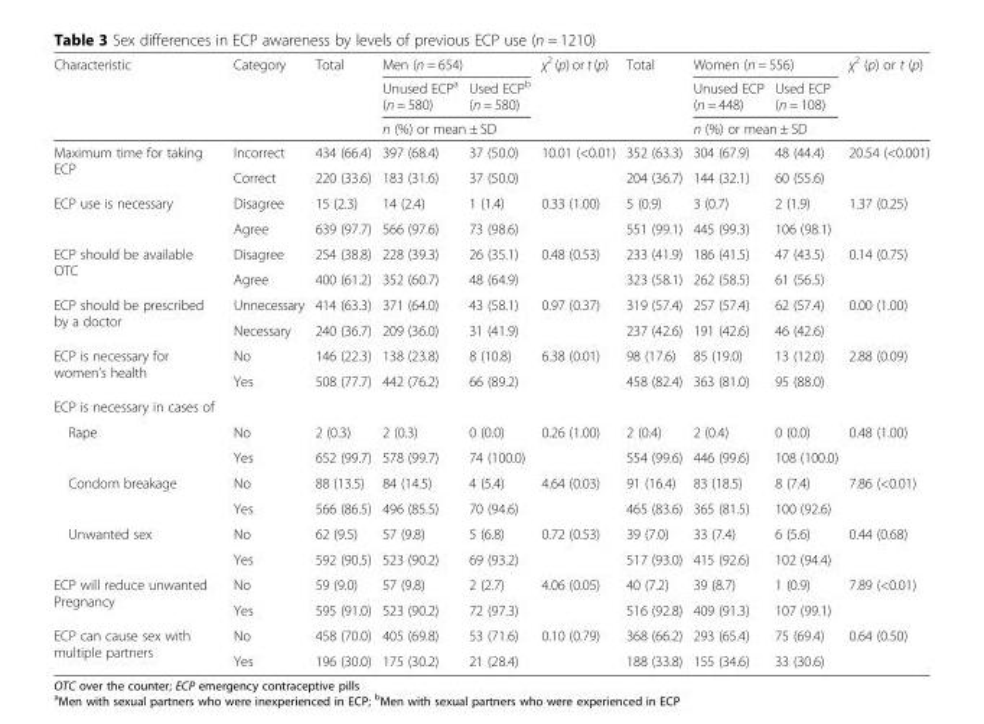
<table><thead><tr><td rowspan="3">Characteristic</td><td rowspan="3">Category</td><td rowspan="3">Total</td><td colspan="2">Men (n = 654)</td><td rowspan="3">χ<sup>2</sup> (p) or t (p)</td><td rowspan="3">Total</td><td colspan="2">Women (n = 556)</td><td rowspan="3">χ<sup>2</sup> (p) or t (p)</td></tr><tr><td>Unused ECP<sup>a</sup> (n = 580)</td><td>Used ECP<sup>b</sup> (n = 580)</td><td>Unused ECP (n = 448)</td><td>Used ECP (n = 108)</td></tr><tr><td colspan="2">n (%) or mean ± SD</td><td colspan="2">n (%) or mean ± SD</td></tr></thead><tbody><tr><td rowspan="2">Maximum time for taking ECP</td><td>Incorrect</td><td>434 (66.4)</td><td>397 (68.4)</td><td>37 (50.0)</td><td>10.01 (&lt;0.01)</td><td>352 (63.3)</td><td>304 (67.9)</td><td>48 (44.4)</td><td>20.54 (&lt;0.001)</td></tr><tr><td>Correct</td><td>220 (33.6)</td><td>183 (31.6)</td><td>37 (50.0)</td><td></td><td>204 (36.7)</td><td>144 (32.1)</td><td>60 (55.6)</td><td></td></tr><tr><td rowspan="2">ECP use is necessary</td><td>Disagree</td><td>15 (2.3)</td><td>14 (2.4)</td><td>1 (1.4)</td><td>0.33 (1.00)</td><td>5 (0.9)</td><td>3 (0.7)</td><td>2 (1.9)</td><td>1.37 (0.25)</td></tr><tr><td>Agree</td><td>639 (97.7)</td><td>566 (97.6)</td><td>73 (98.6)</td><td></td><td>551 (99.1)</td><td>445 (99.3)</td><td>106 (98.1)</td><td></td></tr><tr><td rowspan="2">ECP should be available OTC</td><td>Disagree</td><td>254 (38.8)</td><td>228 (39.3)</td><td>26 (35.1)</td><td>0.48 (0.53)</td><td>233 (41.9)</td><td>186 (41.5)</td><td>47 (43.5)</td><td>0.14 (0.75)</td></tr><tr><td>Agree</td><td>400 (61.2)</td><td>352 (60.7)</td><td>48 (64.9)</td><td></td><td>323 (58.1)</td><td>262 (58.5)</td><td>61 (56.5)</td><td></td></tr><tr><td rowspan="2">ECP should be prescribed by a doctor</td><td>Unnecessary</td><td>414 (63.3)</td><td>371 (64.0)</td><td>43 (58.1)</td><td>0.97 (0.37)</td><td>319 (57.4)</td><td>257 (57.4)</td><td>62 (57.4)</td><td>0.00 (1.00)</td></tr><tr><td>Necessary</td><td>240 (36.7)</td><td>209 (36.0)</td><td>31 (41.9)</td><td></td><td>237 (42.6)</td><td>191 (42.6)</td><td>46 (42.6)</td><td></td></tr><tr><td rowspan="2">ECP is necessary for women’s health</td><td>No</td><td>146 (22.3)</td><td>138 (23.8)</td><td>8 (10.8)</td><td>6.38 (0.01)</td><td>98 (17.6)</td><td>85 (19.0)</td><td>13 (12.0)</td><td>2.88 (0.09)</td></tr><tr><td>Yes</td><td>508 (77.7)</td><td>442 (76.2)</td><td>66 (89.2)</td><td></td><td>458 (82.4)</td><td>363 (81.0)</td><td>95 (88.0)</td><td></td></tr><tr><td colspan="10">ECP is necessary in cases of</td></tr><tr><td rowspan="2">Rape</td><td>No</td><td>2 (0.3)</td><td>2 (0.3)</td><td>0 (0.0)</td><td>0.26 (1.00)</td><td>2 (0.4)</td><td>2 (0.4)</td><td>0 (0.0)</td><td>0.48 (1.00)</td></tr><tr><td>Yes</td><td>652 (99.7)</td><td>578 (99.7)</td><td>74 (100.0)</td><td></td><td>554 (99.6)</td><td>446 (99.6)</td><td>108 (100.0)</td><td></td></tr><tr><td rowspan="2">Condom breakage</td><td>No</td><td>88 (13.5)</td><td>84 (14.5)</td><td>4 (5.4)</td><td>4.64 (0.03)</td><td>91 (16.4)</td><td>83 (18.5)</td><td>8 (7.4)</td><td>7.86 (&lt;0.01)</td></tr><tr><td>Yes</td><td>566 (86.5)</td><td>496 (85.5)</td><td>70 (94.6)</td><td></td><td>465 (83.6)</td><td>365 (81.5)</td><td>100 (92.6)</td><td></td></tr><tr><td rowspan="2">Unwanted sex</td><td>No</td><td>62 (9.5)</td><td>57 (9.8)</td><td>5 (6.8)</td><td>0.72 (0.53)</td><td>39 (7.0)</td><td>33 (7.4)</td><td>6 (5.6)</td><td>0.44 (0.68)</td></tr><tr><td>Yes</td><td>592 (90.5)</td><td>523 (90.2)</td><td>69 (93.2)</td><td></td><td>517 (93.0)</td><td>415 (92.6)</td><td>102 (94.4)</td><td></td></tr><tr><td rowspan="2">ECP will reduce unwanted Pregnancy</td><td>No</td><td>59 (9.0)</td><td>57 (9.8)</td><td>2 (2.7)</td><td>4.06 (0.05)</td><td>40 (7.2)</td><td>39 (8.7)</td><td>1 (0.9)</td><td>7.89 (&lt;0.01)</td></tr><tr><td>Yes</td><td>595 (91.0)</td><td>523 (90.2)</td><td>72 (97.3)</td><td></td><td>516 (92.8)</td><td>409 (91.3)</td><td>107 (99.1)</td><td></td></tr><tr><td rowspan="2">ECP can cause sex with multiple partners</td><td>No</td><td>458 (70.0)</td><td>405 (69.8)</td><td>53 (71.6)</td><td>0.10 (0.79)</td><td>368 (66.2)</td><td>293 (65.4)</td><td>75 (69.4)</td><td>0.64 (0.50)</td></tr><tr><td>Yes</td><td>196 (30.0)</td><td>175 (30.2)</td><td>21 (28.4)</td><td></td><td>188 (33.8)</td><td>155 (34.6)</td><td>33 (30.6)</td><td></td></tr></tbody></table>